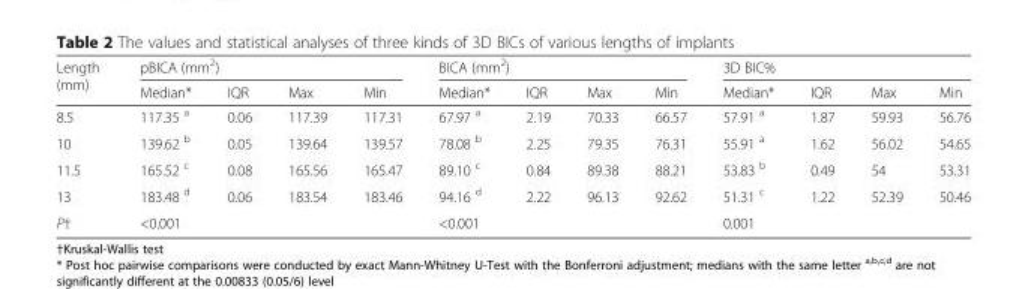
<table><thead><tr><td rowspan="2">Length (mm)</td><td colspan="4">pBICA (mm<sup>2</sup>)</td><td colspan="4">BICA (mm<sup>2</sup>)</td><td colspan="4">3D BIC%</td></tr><tr><td>Median*</td><td>IQR</td><td>Max</td><td>Min</td><td>Median*</td><td>IQR</td><td>Max</td><td>Min</td><td>Median*</td><td>IQR</td><td>Max</td><td>Min</td></tr></thead><tbody><tr><td>8.5</td><td>117.35 <sup>a</sup></td><td>0.06</td><td>117.39</td><td>117.31</td><td>67.97 <sup>a</sup></td><td>2.19</td><td>70.33</td><td>66.57</td><td>57.91 <sup>a</sup></td><td>1.87</td><td>59.93</td><td>56.76</td></tr><tr><td>10</td><td>139.62 <sup>b</sup></td><td>0.05</td><td>139.64</td><td>139.57</td><td>78.08 <sup>b</sup></td><td>2.25</td><td>79.35</td><td>76.31</td><td>55.91 <sup>a</sup></td><td>1.62</td><td>56.02</td><td>54.65</td></tr><tr><td>11.5</td><td>165.52 <sup>c</sup></td><td>0.08</td><td>165.56</td><td>165.47</td><td>89.10 <sup>c</sup></td><td>0.84</td><td>89.38</td><td>88.21</td><td>53.83 <sup>b</sup></td><td>0.49</td><td>54</td><td>53.31</td></tr><tr><td>13</td><td>183.48 <sup>d</sup></td><td>0.06</td><td>183.54</td><td>183.46</td><td>94.16 <sup>d</sup></td><td>2.22</td><td>96.13</td><td>92.62</td><td>51.31 <sup>c</sup></td><td>1.22</td><td>52.39</td><td>50.46</td></tr><tr><td>P†</td><td>&lt;0.001</td><td></td><td></td><td></td><td>&lt;0.001</td><td></td><td></td><td></td><td>0.001</td><td></td><td></td><td></td></tr></tbody></table>